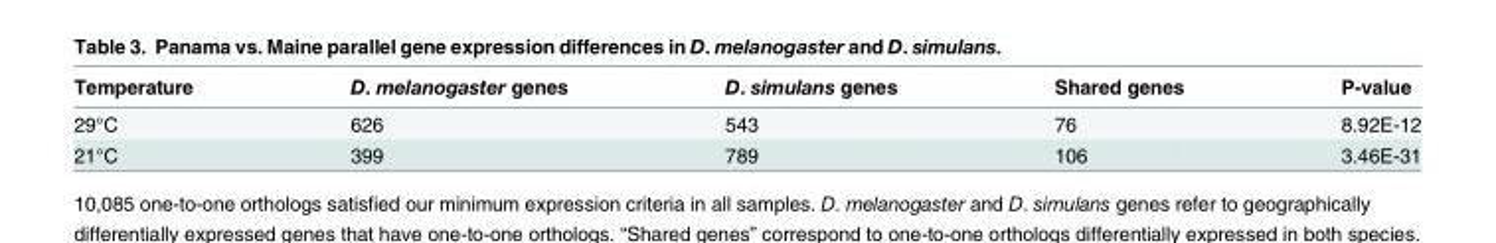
<table><thead><tr><td>Temperature</td><td>D. melanogaster genes</td><td>D. simulans genes</td><td>Shared genes</td><td>P-value</td></tr></thead><tbody><tr><td>29°C</td><td>626</td><td>543</td><td>76</td><td>8.92E-12</td></tr><tr><td>21°C</td><td>399</td><td>789</td><td>106</td><td>3.46E-31</td></tr></tbody></table>